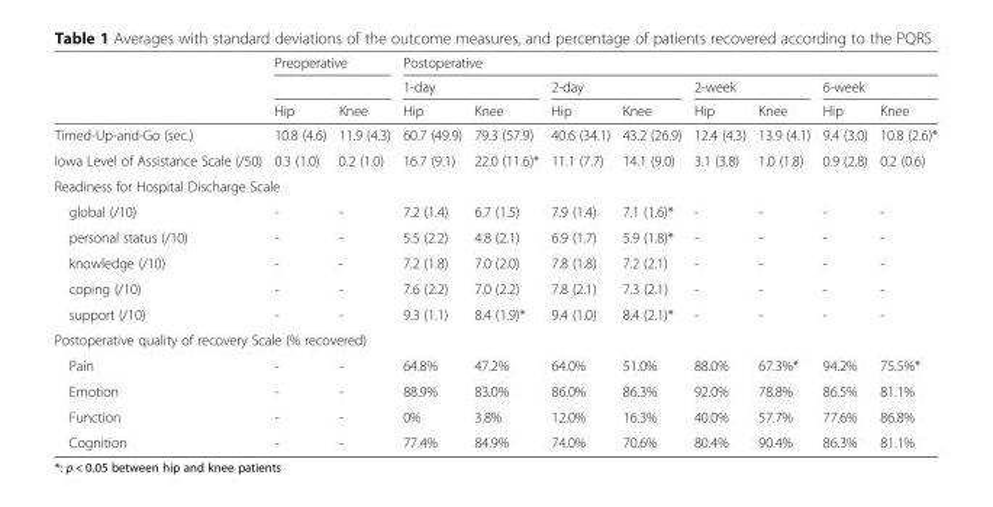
<table><thead><tr><td rowspan="3"></td><td colspan="2">Preoperative</td><td colspan="8">Postoperative</td></tr><tr><td rowspan="2">Hip</td><td rowspan="2">Knee</td><td colspan="2">1-day</td><td colspan="2">2-day</td><td colspan="2">2-week</td><td colspan="2">6-week</td></tr><tr><td>Hip</td><td>Knee</td><td>Hip</td><td>Knee</td><td>Hip</td><td>Knee</td><td>Hip</td><td>Knee</td></tr></thead><tbody><tr><td>Timed-Up-and-Go (sec.)</td><td>10.8 (4.6)</td><td>11.9 (4.3)</td><td>60.7 (49.9)</td><td>79.3 (57.9)</td><td>40.6 (34.1)</td><td>43.2 (26.9)</td><td>12.4 (4.3)</td><td>13.9 (4.1)</td><td>9.4 (3.0)</td><td>10.8 (2.6)*</td></tr><tr><td>Iowa Level of Assistance Scale (/50)</td><td>0.3 (1.0)</td><td>0.2 (1.0)</td><td>16.7 (9.1)</td><td>22.0 (11.6)*</td><td>11.1 (7.7)</td><td>14.1 (9.0)</td><td>3.1 (3.8)</td><td>1.0 (1.8)</td><td>0.9 (2.8)</td><td>0.2 (0.6)</td></tr><tr><td colspan="11">Readiness for Hospital Discharge Scale</td></tr><tr><td>global (/10)</td><td>-</td><td>-</td><td>7.2 (1.4)</td><td>6.7 (1.5)</td><td>7.9 (1.4)</td><td>7.1 (1.6)*</td><td>-</td><td>-</td><td>-</td><td>-</td></tr><tr><td>personal status (/10)</td><td>-</td><td>-</td><td>5.5 (2.2)</td><td>4.8 (2.1)</td><td>6.9 (1.7)</td><td>5.9 (1.8)*</td><td>-</td><td>-</td><td>-</td><td>-</td></tr><tr><td>knowledge (/10)</td><td>-</td><td>-</td><td>7.2 (1.8)</td><td>7.0 (2.0)</td><td>7.8 (1.8)</td><td>7.2 (2.1)</td><td>-</td><td>-</td><td>-</td><td>-</td></tr><tr><td>coping (/10)</td><td>-</td><td>-</td><td>7.6 (2.2)</td><td>7.0 (2.2)</td><td>7.8 (2.1)</td><td>7.3 (2.1)</td><td>-</td><td>-</td><td>-</td><td>-</td></tr><tr><td>support (/10)</td><td>-</td><td>-</td><td>9.3 (1.1)</td><td>8.4 (1.9)*</td><td>9.4 (1.0)</td><td>8.4 (2.1)*</td><td>-</td><td>-</td><td>-</td><td>-</td></tr><tr><td colspan="11">Postoperative quality of recovery Scale (% recovered)</td></tr><tr><td>Pain</td><td>-</td><td>-</td><td>64.8%</td><td>47.2%</td><td>64.0%</td><td>51.0%</td><td>88.0%</td><td>67.3%*</td><td>94.2%</td><td>75.5%*</td></tr><tr><td>Emotion</td><td>-</td><td>-</td><td>88.9%</td><td>83.0%</td><td>86.0%</td><td>86.3%</td><td>92.0%</td><td>78.8%</td><td>86.5%</td><td>81.1%</td></tr><tr><td>Function</td><td>-</td><td>-</td><td>0%</td><td>3.8%</td><td>12.0%</td><td>16.3%</td><td>40.0%</td><td>57.7%</td><td>77.6%</td><td>86.8%</td></tr><tr><td>Cognition</td><td>-</td><td>-</td><td>77.4%</td><td>84.9%</td><td>74.0%</td><td>70.6%</td><td>80.4%</td><td>90.4%</td><td>86.3%</td><td>81.1%</td></tr></tbody></table>